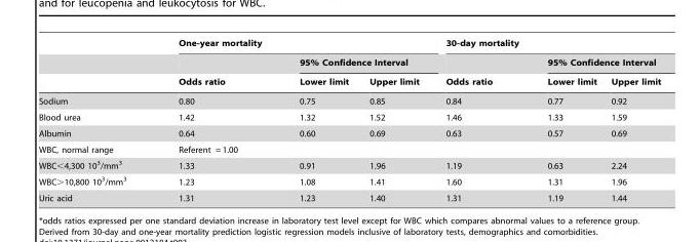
<table><thead><tr><td rowspan="3"></td><td colspan="3">One-year mortality</td><td colspan="3">30-day mortality</td></tr><tr><td rowspan="2">Odds ratio</td><td colspan="2">95% Confidence Interval</td><td rowspan="2">Odds ratio</td><td colspan="2">95% Confidence Interval</td></tr><tr><td>Lower limit</td><td>Upper limit</td><td>Lower limit</td><td>Upper limit</td></tr></thead><tbody><tr><td>Sodium</td><td>0.80</td><td>0.75</td><td>0.85</td><td>0.84</td><td>0.77</td><td>0.92</td></tr><tr><td>Blood urea</td><td>1.42</td><td>1.32</td><td>1.52</td><td>1.46</td><td>1.33</td><td>1.59</td></tr><tr><td>Albumin</td><td>0.64</td><td>0.60</td><td>0.69</td><td>0.63</td><td>0.57</td><td>0.69</td></tr><tr><td>WBC, normal range</td><td>Referent = 1.00</td><td></td><td></td><td></td><td></td><td></td></tr><tr><td>WBC&lt;4,300 10<sup>3</sup>/mm<sup>3</sup></td><td>1.33</td><td>0.91</td><td>1.96</td><td>1.19</td><td>0.63</td><td>2.24</td></tr><tr><td>WBC&gt;10,800 10<sup>3</sup>/mm<sup>3</sup></td><td>1.23</td><td>1.08</td><td>1.41</td><td>1.60</td><td>1.31</td><td>1.96</td></tr><tr><td>Uric acid</td><td>1.31</td><td>1.23</td><td>1.40</td><td>1.31</td><td>1.19</td><td>1.44</td></tr></tbody></table>